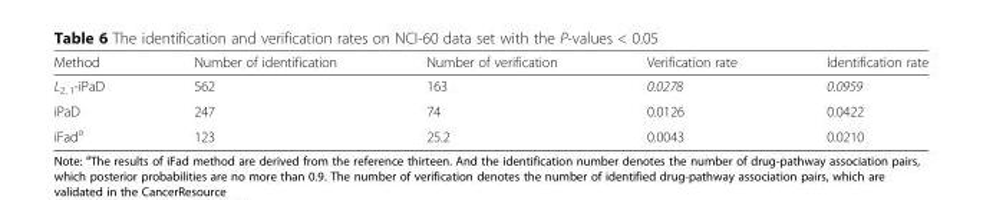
<table><thead><tr><td>Method</td><td>Number of identification</td><td>Number of verification</td><td>Verification rate</td><td>Identification rate</td></tr></thead><tbody><tr><td>L<sub>2, 1</sub>-iPaD</td><td>562</td><td>163</td><td>0.0278</td><td>0.0959</td></tr><tr><td>iPaD</td><td>247</td><td>74</td><td>0.0126</td><td>0.0422</td></tr><tr><td>iFad<sup>a</sup></td><td>123</td><td>25.2</td><td>0.0043</td><td>0.0210</td></tr></tbody></table>